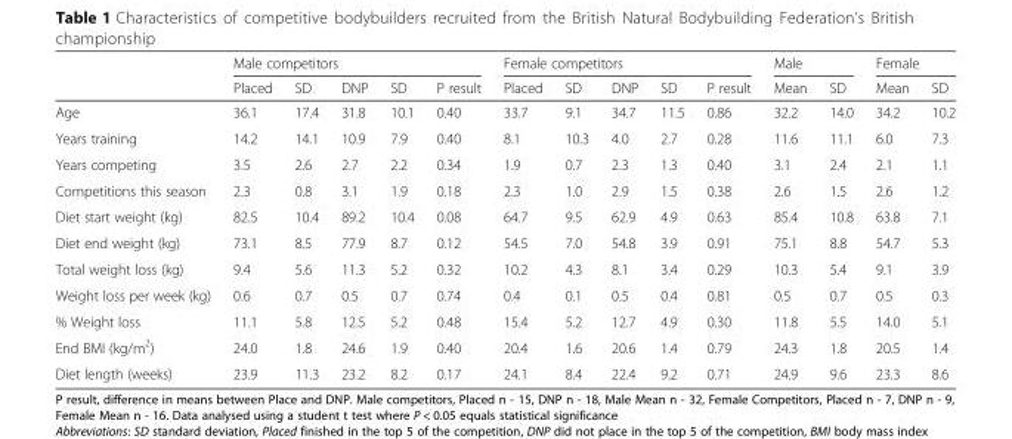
<table><thead><tr><td rowspan="2"></td><td colspan="5">Male competitors</td><td colspan="5">Female competitors</td><td colspan="2">Male</td><td colspan="2">Female</td></tr><tr><td>Placed</td><td>SD</td><td>DNP</td><td>SD</td><td>P result</td><td>Placed</td><td>SD</td><td>DNP</td><td>SD</td><td>P result</td><td>Mean</td><td>SD</td><td>Mean</td><td>SD</td></tr></thead><tbody><tr><td>Age</td><td>36.1</td><td>17.4</td><td>31.8</td><td>10.1</td><td>0.40</td><td>33.7</td><td>9.1</td><td>34.7</td><td>11.5</td><td>0.86</td><td>32.2</td><td>14.0</td><td>34.2</td><td>10.2</td></tr><tr><td>Years training</td><td>14.2</td><td>14.1</td><td>10.9</td><td>7.9</td><td>0.40</td><td>8.1</td><td>10.3</td><td>4.0</td><td>2.7</td><td>0.28</td><td>11.6</td><td>11.1</td><td>6.0</td><td>7.3</td></tr><tr><td>Years competing</td><td>3.5</td><td>2.6</td><td>2.7</td><td>2.2</td><td>0.34</td><td>1.9</td><td>0.7</td><td>2.3</td><td>1.3</td><td>0.40</td><td>3.1</td><td>2.4</td><td>2.1</td><td>1.1</td></tr><tr><td>Competitions this season</td><td>2.3</td><td>0.8</td><td>3.1</td><td>1.9</td><td>0.18</td><td>2.3</td><td>1.0</td><td>2.9</td><td>1.5</td><td>0.38</td><td>2.6</td><td>1.5</td><td>2.6</td><td>1.2</td></tr><tr><td>Diet start weight (kg)</td><td>82.5</td><td>10.4</td><td>89.2</td><td>10.4</td><td>0.08</td><td>64.7</td><td>9.5</td><td>62.9</td><td>4.9</td><td>0.63</td><td>85.4</td><td>10.8</td><td>63.8</td><td>7.1</td></tr><tr><td>Diet end weight (kg)</td><td>73.1</td><td>8.5</td><td>77.9</td><td>8.7</td><td>0.12</td><td>54.5</td><td>7.0</td><td>54.8</td><td>3.9</td><td>0.91</td><td>75.1</td><td>8.8</td><td>54.7</td><td>5.3</td></tr><tr><td>Total weight loss (kg)</td><td>9.4</td><td>5.6</td><td>11.3</td><td>5.2</td><td>0.32</td><td>10.2</td><td>4.3</td><td>8.1</td><td>3.4</td><td>0.29</td><td>10.3</td><td>5.4</td><td>9.1</td><td>3.9</td></tr><tr><td>Weight loss per week (kg)</td><td>0.6</td><td>0.7</td><td>0.5</td><td>0.7</td><td>0.74</td><td>0.4</td><td>0.1</td><td>0.5</td><td>0.4</td><td>0.81</td><td>0.5</td><td>0.7</td><td>0.5</td><td>0.3</td></tr><tr><td>% Weight loss</td><td>11.1</td><td>5.8</td><td>12.5</td><td>5.2</td><td>0.48</td><td>15.4</td><td>5.2</td><td>12.7</td><td>4.9</td><td>0.30</td><td>11.8</td><td>5.5</td><td>14.0</td><td>5.1</td></tr><tr><td>End BMI (kg/m<sup>2</sup>)</td><td>24.0</td><td>1.8</td><td>24.6</td><td>1.9</td><td>0.40</td><td>20.4</td><td>1.6</td><td>20.6</td><td>1.4</td><td>0.79</td><td>24.3</td><td>1.8</td><td>20.5</td><td>1.4</td></tr><tr><td>Diet length (weeks)</td><td>23.9</td><td>11.3</td><td>23.2</td><td>8.2</td><td>0.17</td><td>24.1</td><td>8.4</td><td>22.4</td><td>9.2</td><td>0.71</td><td>24.9</td><td>9.6</td><td>23.3</td><td>8.6</td></tr></tbody></table>